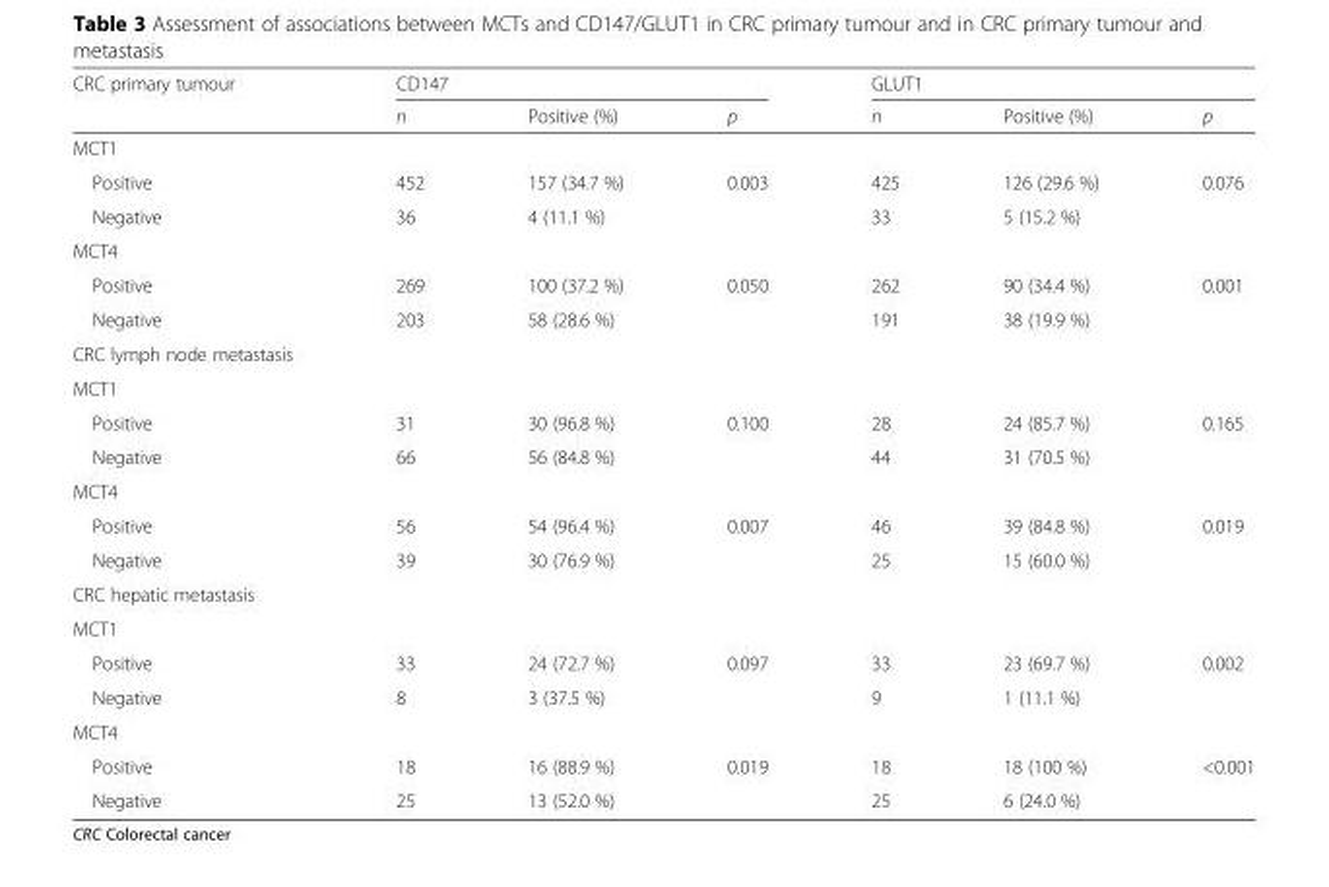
<table><thead><tr><td rowspan="2">CRC primary tumour</td><td colspan="3">CD147</td><td colspan="3">GLUT1</td></tr><tr><td>n</td><td>Positive (%)</td><td>p</td><td>n</td><td>Positive (%)</td><td>p</td></tr></thead><tbody><tr><td colspan="7">MCT1</td></tr><tr><td>Positive</td><td>452</td><td>157 (34.7 %)</td><td>0.003</td><td>425</td><td>126 (29.6 %)</td><td>0.076</td></tr><tr><td>Negative</td><td>36</td><td>4 (11.1 %)</td><td></td><td>33</td><td>5 (15.2 %)</td><td></td></tr><tr><td colspan="7">MCT4</td></tr><tr><td>Positive</td><td>269</td><td>100 (37.2 %)</td><td>0.050</td><td>262</td><td>90 (34.4 %)</td><td>0.001</td></tr><tr><td>Negative</td><td>203</td><td>58 (28.6 %)</td><td></td><td>191</td><td>38 (19.9 %)</td><td></td></tr><tr><td colspan="7">CRC lymph node metastasis</td></tr><tr><td colspan="7">MCT1</td></tr><tr><td>Positive</td><td>31</td><td>30 (96.8 %)</td><td>0.100</td><td>28</td><td>24 (85.7 %)</td><td>0.165</td></tr><tr><td>Negative</td><td>66</td><td>56 (84.8 %)</td><td></td><td>44</td><td>31 (70.5 %)</td><td></td></tr><tr><td colspan="7">MCT4</td></tr><tr><td>Positive</td><td>56</td><td>54 (96.4 %)</td><td>0.007</td><td>46</td><td>39 (84.8 %)</td><td>0.019</td></tr><tr><td>Negative</td><td>39</td><td>30 (76.9 %)</td><td></td><td>25</td><td>15 (60.0 %)</td><td></td></tr><tr><td colspan="7">CRC hepatic metastasis</td></tr><tr><td colspan="7">MCT1</td></tr><tr><td>Positive</td><td>33</td><td>24 (72.7 %)</td><td>0.097</td><td>33</td><td>23 (69.7 %)</td><td>0.002</td></tr><tr><td>Negative</td><td>8</td><td>3 (37.5 %)</td><td></td><td>9</td><td>1 (11.1 %)</td><td></td></tr><tr><td colspan="7">MCT4</td></tr><tr><td>Positive</td><td>18</td><td>16 (88.9 %)</td><td>0.019</td><td>18</td><td>18 (100 %)</td><td>&lt;0.001</td></tr><tr><td>Negative</td><td>25</td><td>13 (52.0 %)</td><td></td><td>25</td><td>6 (24.0 %)</td><td></td></tr></tbody></table>